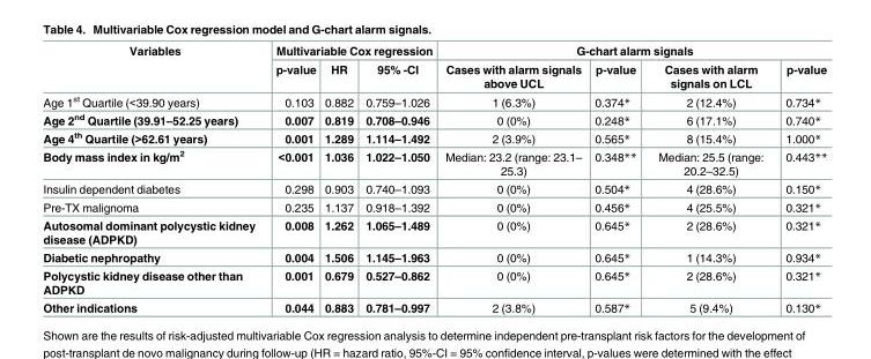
<table><thead><tr><td rowspan="2">Variables</td><td colspan="3">Multivariable Cox regression</td><td colspan="4">G-chart alarm signals</td></tr><tr><td>p-value</td><td>HR</td><td>95% -CI</td><td>Cases with alarm signals above UCL</td><td>p-value</td><td>Cases with alarm signals on LCL</td><td>p-value</td></tr></thead><tbody><tr><td>Age 1<sup>st</sup> Quartile (&lt;39.90 years)</td><td>0.103</td><td>0.882</td><td>0.759–1.026</td><td>1 (6.3%)</td><td>0.374*</td><td>2 (12.4%)</td><td>0.734*</td></tr><tr><td>Age 2<sup>nd</sup> Quartile (39.91–52.25 years)</td><td>0.007</td><td>0.819</td><td>0.708–0.946</td><td>0 (0%)</td><td>0.248*</td><td>6 (17.1%)</td><td>0.740*</td></tr><tr><td>Age 4<sup>th</sup> Quartile (&gt;62.61 years)</td><td>0.001</td><td>1.289</td><td>1.114–1.492</td><td>2 (3.9%)</td><td>0.565*</td><td>8 (15.4%)</td><td>1.000*</td></tr><tr><td>Body mass index in kg/m<sup>2</sup></td><td>&lt;0.001</td><td>1.036</td><td>1.022–1.050</td><td>Median: 23.2 (range: 23.1– 25.3)</td><td>0.348**</td><td>Median: 25.5 (range: 20.2–32.5)</td><td>0.443**</td></tr><tr><td>Insulin dependent diabetes</td><td>0.298</td><td>0.903</td><td>0.740–1.093</td><td>0 (0%)</td><td>0.504*</td><td>4 (28.6%)</td><td>0.150*</td></tr><tr><td>Pre-TX malignoma</td><td>0.235</td><td>1.137</td><td>0.918–1.392</td><td>0 (0%)</td><td>0.456*</td><td>4 (25.5%)</td><td>0.321*</td></tr><tr><td>Autosomal dominant polycystic kidney disease (ADPKD)</td><td>0.008</td><td>1.262</td><td>1.065–1.489</td><td>0 (0%)</td><td>0.645*</td><td>2 (28.6%)</td><td>0.321*</td></tr><tr><td>Diabetic nephropathy</td><td>0.004</td><td>1.506</td><td>1.145–1.963</td><td>0 (0%)</td><td>0.645*</td><td>1 (14.3%)</td><td>0.934*</td></tr><tr><td>Polycystic kidney disease other than ADPKD</td><td>0.001</td><td>0.679</td><td>0.527–0.862</td><td>0 (0%)</td><td>0.645*</td><td>2 (28.6%)</td><td>0.321*</td></tr><tr><td>Other indications</td><td>0.044</td><td>0.883</td><td>0.781–0.997</td><td>2 (3.8%)</td><td>0.587*</td><td>5 (9.4%)</td><td>0.130*</td></tr></tbody></table>